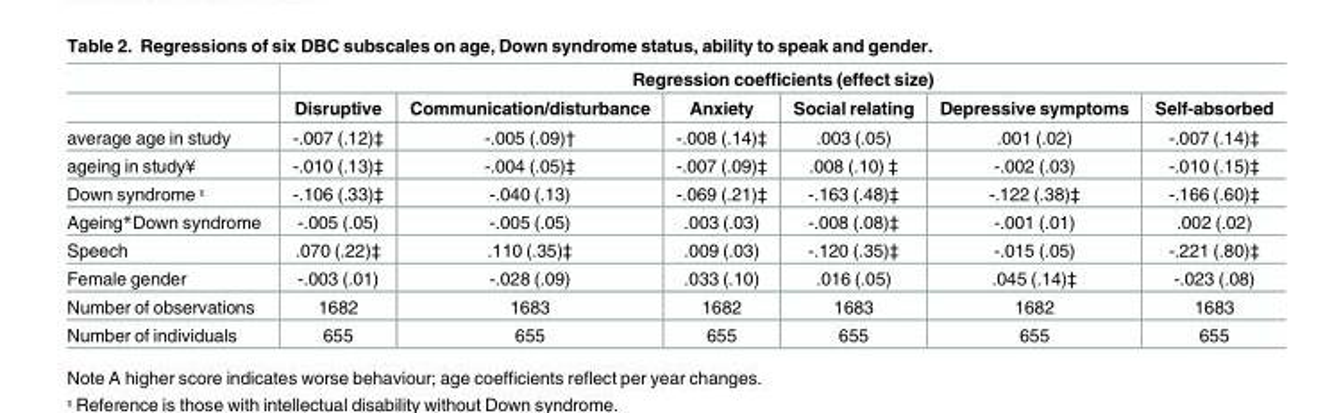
<table><thead><tr><td rowspan="2"></td><td colspan="6">Regression coefficients (effect size)</td></tr><tr><td>Disruptive</td><td>Communication/disturbance</td><td>Anxiety</td><td>Social relating</td><td>Depressive symptoms</td><td>Self-absorbed</td></tr></thead><tbody><tr><td>average age in study</td><td>-.007 (.12)‡</td><td>-.005 (.09)†</td><td>-.008 (.14)‡</td><td>.003 (.05)</td><td>.001 (.02)</td><td>-.007 (.14)‡</td></tr><tr><td>ageing in study¥</td><td>-.010 (.13)‡</td><td>-.004 (.05)‡</td><td>-.007 (.09)‡</td><td>.008 (.10) ‡</td><td>-.002 (.03)</td><td>-.010 (.15)‡</td></tr><tr><td>Down syndrome ˠ</td><td>-.106 (.33)‡</td><td>-.040 (.13)</td><td>-.069 (.21)‡</td><td>-.163 (.48)‡</td><td>-.122 (.38)‡</td><td>-.166 (.60)‡</td></tr><tr><td>Ageing*Down syndrome</td><td>-.005 (.05)</td><td>-.005 (.05)</td><td>.003 (.03)</td><td>-.008 (.08)‡</td><td>-.001 (.01)</td><td>.002 (.02)</td></tr><tr><td>Speech</td><td>.070 (.22)‡</td><td>.110 (.35)‡</td><td>.009 (.03)</td><td>-.120 (.35)‡</td><td>-.015 (.05)</td><td>-.221 (.80)‡</td></tr><tr><td>Female gender</td><td>-.003 (.01)</td><td>-.028 (.09)</td><td>.033 (.10)</td><td>.016 (.05)</td><td>.045 (.14)‡</td><td>-.023 (.08)</td></tr><tr><td>Number of observations</td><td>1682</td><td>1683</td><td>1682</td><td>1683</td><td>1682</td><td>1683</td></tr><tr><td>Number of individuals</td><td>655</td><td>655</td><td>655</td><td>655</td><td>655</td><td>655</td></tr></tbody></table>